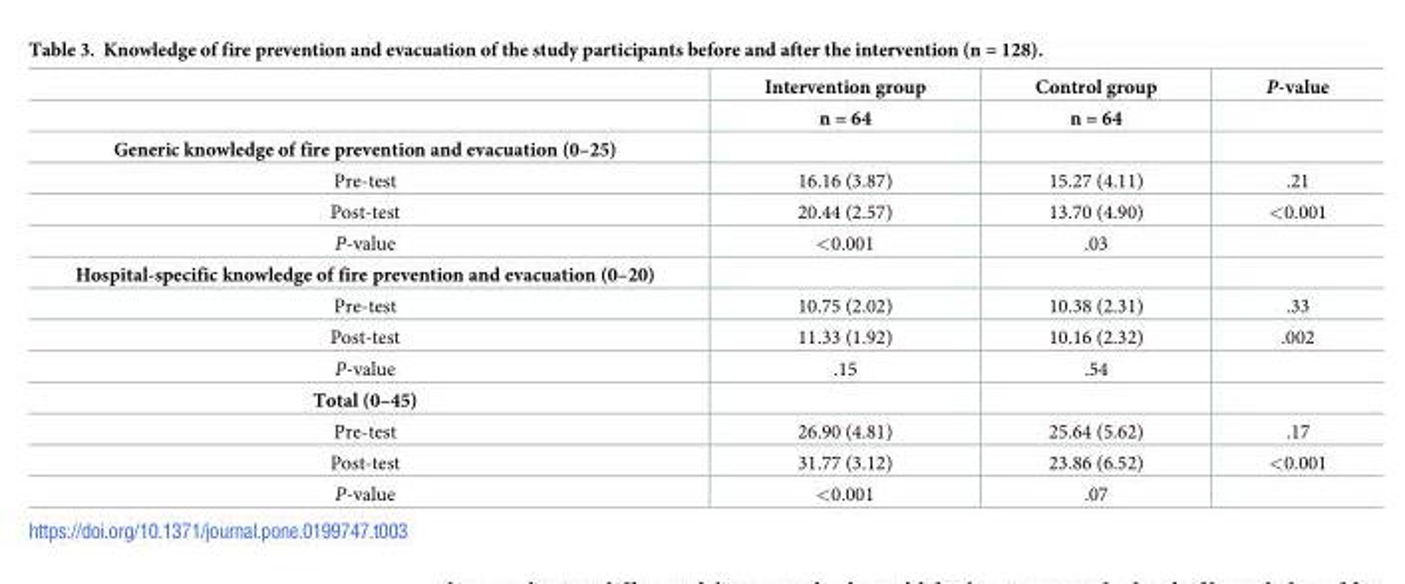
<table><thead><tr><td rowspan="2"></td><td rowspan="2">Intervention group n = 64</td><td rowspan="2">Control group n = 64</td><td rowspan="2">P-value</td></tr><tr></tr></thead><tbody><tr><td colspan="4">Generic knowledge of fire prevention and evacuation (0–25)</td></tr><tr><td>Pre-test</td><td>16.16 (3.87)</td><td>15.27 (4.11)</td><td>.21</td></tr><tr><td>Post-test</td><td>20.44 (2.57)</td><td>13.70 (4.90)</td><td>&lt;0.001</td></tr><tr><td>P-value</td><td>&lt;0.001</td><td>.03</td><td></td></tr><tr><td colspan="4">Hospital-specific knowledge of fire prevention and evacuation (0–20)</td></tr><tr><td>Pre-test</td><td>10.75 (2.02)</td><td>10.38 (2.31)</td><td>.33</td></tr><tr><td>Post-test</td><td>11.33 (1.92)</td><td>10.16 (2.32)</td><td>.002</td></tr><tr><td>P-value</td><td>.15</td><td>.54</td><td></td></tr><tr><td colspan="4">Total (0–45)</td></tr><tr><td>Pre-test</td><td>26.90 (4.81)</td><td>25.64 (5.62)</td><td>.17</td></tr><tr><td>Post-test</td><td>31.77 (3.12)</td><td>23.86 (6.52)</td><td>&lt;0.001</td></tr><tr><td>P-value</td><td>&lt;0.001</td><td>.07</td><td></td></tr></tbody></table>